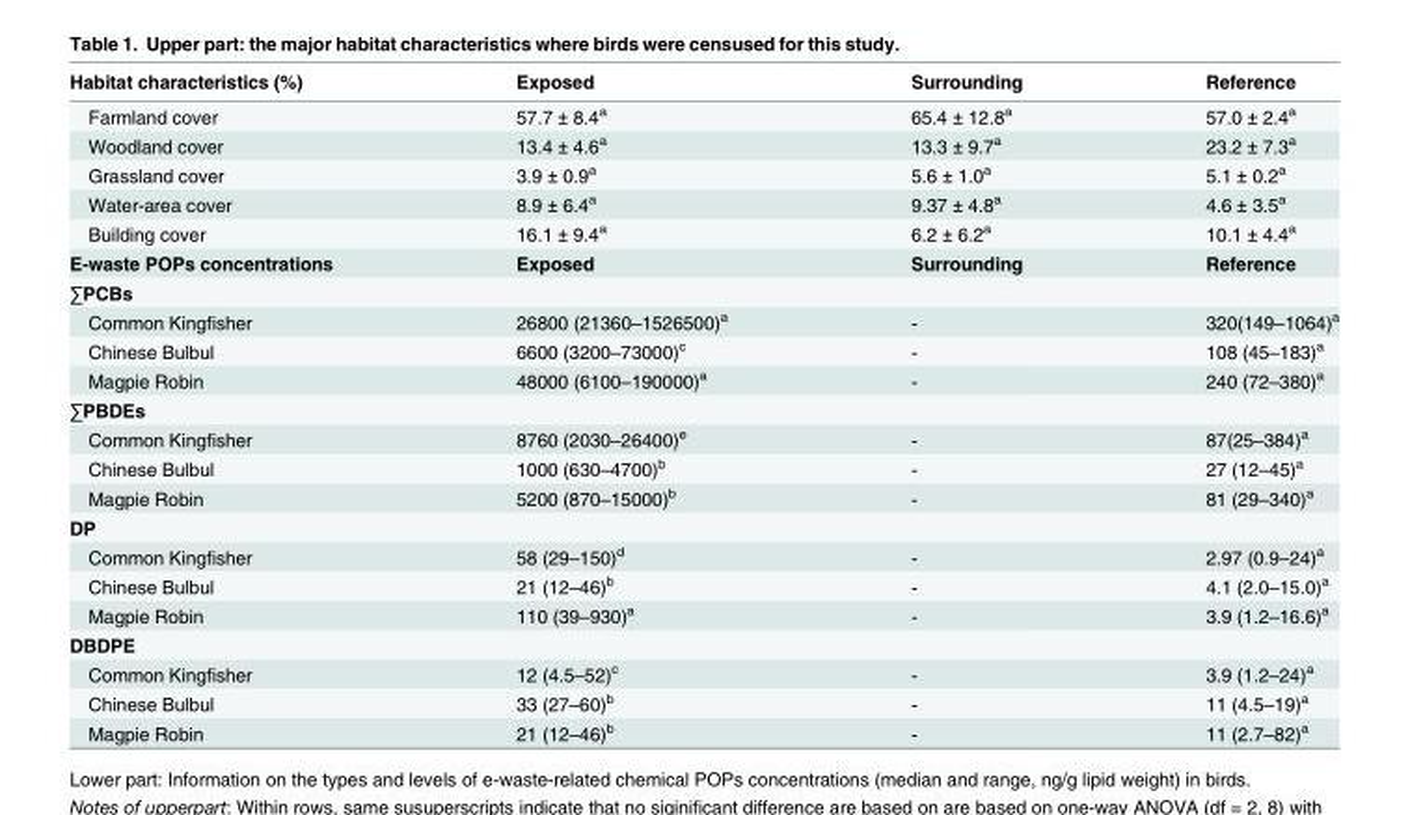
<table><thead><tr><td>Habitat characteristics (%)</td><td>Exposed</td><td>Surrounding</td><td>Reference</td></tr></thead><tbody><tr><td>Farmland cover</td><td>57.7 ± 8.4<sup>a</sup></td><td>65.4 ± 12.8<sup>a</sup></td><td>57.0 ± 2.4<sup>a</sup></td></tr><tr><td>Woodland cover</td><td>13.4 ± 4.6<sup>a</sup></td><td>13.3 ± 9.7<sup>a</sup></td><td>23.2 ± 7.3<sup>a</sup></td></tr><tr><td>Grassland cover</td><td>3.9 ± 0.9<sup>a</sup></td><td>5.6 ± 1.0<sup>a</sup></td><td>5.1 ± 0.2<sup>a</sup></td></tr><tr><td>Water-area cover</td><td>8.9 ± 6.4<sup>a</sup></td><td>9.37 ± 4.8<sup>a</sup></td><td>4.6 ± 3.5<sup>a</sup></td></tr><tr><td>Building cover</td><td>16.1 ± 9.4<sup>a</sup></td><td>6.2 ± 6.2<sup>a</sup></td><td>10.1 ± 4.4<sup>a</sup></td></tr><tr><td>E-waste POPs concentrations</td><td>Exposed</td><td>Surrounding</td><td>Reference</td></tr><tr><td colspan="4">∑PCBs</td></tr><tr><td>Common Kingfisher</td><td>26800 (21360–1526500)<sup>a</sup></td><td>-</td><td>320(149–1064)<sup>a</sup></td></tr><tr><td>Chinese Bulbul</td><td>6600 (3200–73000)<sup>c</sup></td><td>-</td><td>108 (45–183)<sup>a</sup></td></tr><tr><td>Magpie Robin</td><td>48000 (6100–190000)<sup>a</sup></td><td>-</td><td>240 (72–380)<sup>a</sup></td></tr><tr><td colspan="4">∑PBDEs</td></tr><tr><td>Common Kingfisher</td><td>8760 (2030–26400)<sup>e</sup></td><td>-</td><td>87(25–384)<sup>a</sup></td></tr><tr><td>Chinese Bulbul</td><td>1000 (630–4700)<sup>b</sup></td><td>-</td><td>27 (12–45)<sup>a</sup></td></tr><tr><td>Magpie Robin</td><td>5200 (870–15000)<sup>b</sup></td><td>-</td><td>81 (29–340)<sup>a</sup></td></tr><tr><td colspan="4">DP</td></tr><tr><td>Common Kingfisher</td><td>58 (29–150)<sup>d</sup></td><td>-</td><td>2.97 (0.9–24)<sup>a</sup></td></tr><tr><td>Chinese Bulbul</td><td>21 (12–46)<sup>b</sup></td><td>-</td><td>4.1 (2.0–15.0)<sup>a</sup></td></tr><tr><td>Magpie Robin</td><td>110 (39–930)<sup>a</sup></td><td>-</td><td>3.9 (1.2–16.6)<sup>a</sup></td></tr><tr><td colspan="4">DBDPE</td></tr><tr><td>Common Kingfisher</td><td>12 (4.5–52)<sup>c</sup></td><td>-</td><td>3.9 (1.2–24)<sup>a</sup></td></tr><tr><td>Chinese Bulbul</td><td>33 (27–60)<sup>b</sup></td><td>-</td><td>11 (4.5–19)<sup>a</sup></td></tr><tr><td>Magpie Robin</td><td>21 (12–46)<sup>b</sup></td><td>-</td><td>11 (2.7–82)<sup>a</sup></td></tr></tbody></table>